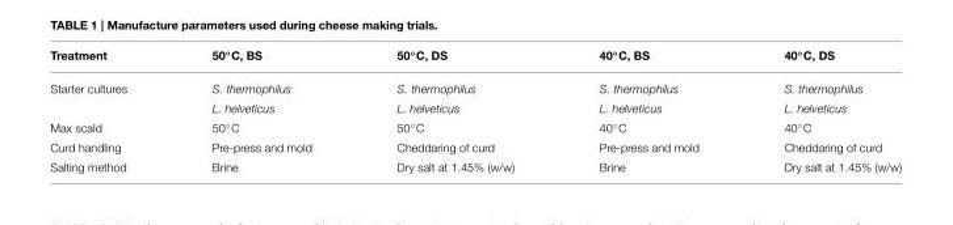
<table><thead><tr><td>Treatment</td><td>50◦C, BS</td><td>50◦C, DS</td><td>40◦C, BS</td><td>40◦C, DS</td></tr></thead><tbody><tr><td rowspan="2">Starter cultures</td><td>S. thermophilus</td><td>S. thermophilus</td><td>S. thermophilus</td><td>S. thermophilus</td></tr><tr><td>L. helveticus</td><td>L. helveticus</td><td>L. helveticus</td><td>L. helveticus</td></tr><tr><td>Max scald</td><td>50◦C</td><td>50◦C</td><td>40◦C</td><td>40◦C</td></tr><tr><td>Curd handling</td><td>Pre-press and mold</td><td>Cheddaring of curd</td><td>Pre-press and mold</td><td>Cheddaring of curd</td></tr><tr><td>Salting method</td><td>Brine</td><td>Dry salt at 1.45% (w/w)</td><td>Brine</td><td>Dry salt at 1.45% (w/w)</td></tr></tbody></table>